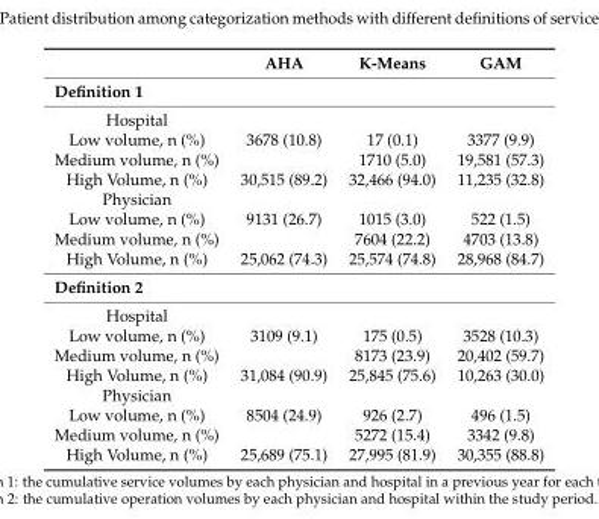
<table><thead><tr><td></td><td>AHA</td><td>K-Means</td><td>GAM</td></tr></thead><tbody><tr><td colspan="4">Definition 1</td></tr><tr><td colspan="4">Hospital</td></tr><tr><td>Low volume, n (%)</td><td>3678 (10.8)</td><td>17 (0.1)</td><td>3377 (9.9)</td></tr><tr><td>Medium volume, n (%)</td><td></td><td>1710 (5.0)</td><td>19,581 (57.3)</td></tr><tr><td>High Volume, n (%)</td><td>30,515 (89.2)</td><td>32,466 (94.0)</td><td>11,235 (32.8)</td></tr><tr><td colspan="4">Physician</td></tr><tr><td>Low volume, n (%)</td><td>9131 (26.7)</td><td>1015 (3.0)</td><td>522 (1.5)</td></tr><tr><td>Medium volume, n (%)</td><td></td><td>7604 (22.2)</td><td>4703 (13.8)</td></tr><tr><td>High Volume, n (%)</td><td>25,062 (74.3)</td><td>25,574 (74.8)</td><td>28,968 (84.7)</td></tr><tr><td colspan="4">Definition 2</td></tr><tr><td colspan="4">Hospital</td></tr><tr><td>Low volume, n (%)</td><td>3109 (9.1)</td><td>175 (0.5)</td><td>3528 (10.3)</td></tr><tr><td>Medium volume, n (%)</td><td></td><td>8173 (23.9)</td><td>20,402 (59.7)</td></tr><tr><td>High Volume, n (%)</td><td>31,084 (90.9)</td><td>25,845 (75.6)</td><td>10,263 (30.0)</td></tr><tr><td colspan="4">Physician</td></tr><tr><td>Low volume, n (%)</td><td>8504 (24.9)</td><td>926 (2.7)</td><td>496 (1.5)</td></tr><tr><td>Medium volume, n (%)</td><td></td><td>5272 (15.4)</td><td>3342 (9.8)</td></tr><tr><td>High Volume, n (%)</td><td>25,689 (75.1)</td><td>27,995 (81.9)</td><td>30,355 (88.8)</td></tr></tbody></table>